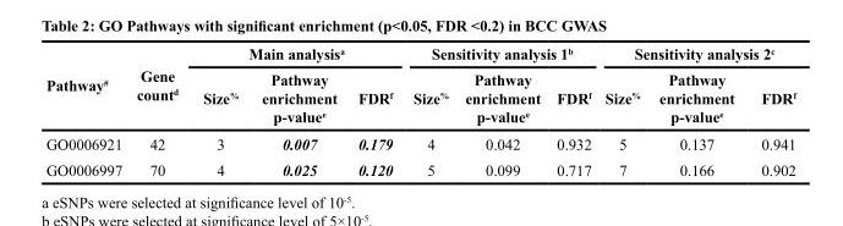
<table><thead><tr><td rowspan="2">Pathway<sup>#</sup></td><td rowspan="2">Gene count<sup>d</sup></td><td colspan="3">Main analysis<sup>a</sup></td><td colspan="3">Sensitivity analysis 1<sup>b</sup></td><td colspan="3">Sensitivity analysis 2<sup>c</sup></td></tr><tr><td>Size<sup>%</sup></td><td>Pathway enrichment p-value<sup>e</sup></td><td>FDR<sup>f</sup></td><td>Size<sup>%</sup></td><td>Pathway enrichment p-value<sup>e</sup></td><td>FDR<sup>f</sup></td><td>Size<sup>%</sup></td><td>Pathway enrichment p-value<sup>e</sup></td><td>FDR<sup>f</sup></td></tr></thead><tbody><tr><td>GO0006921</td><td>42</td><td>3</td><td>0.007</td><td>0.179</td><td>4</td><td>0.042</td><td>0.932</td><td>5</td><td>0.137</td><td>0.941</td></tr><tr><td>GO0006997</td><td>70</td><td>4</td><td>0.025</td><td>0.120</td><td>5</td><td>0.099</td><td>0.717</td><td>7</td><td>0.166</td><td>0.902</td></tr></tbody></table>